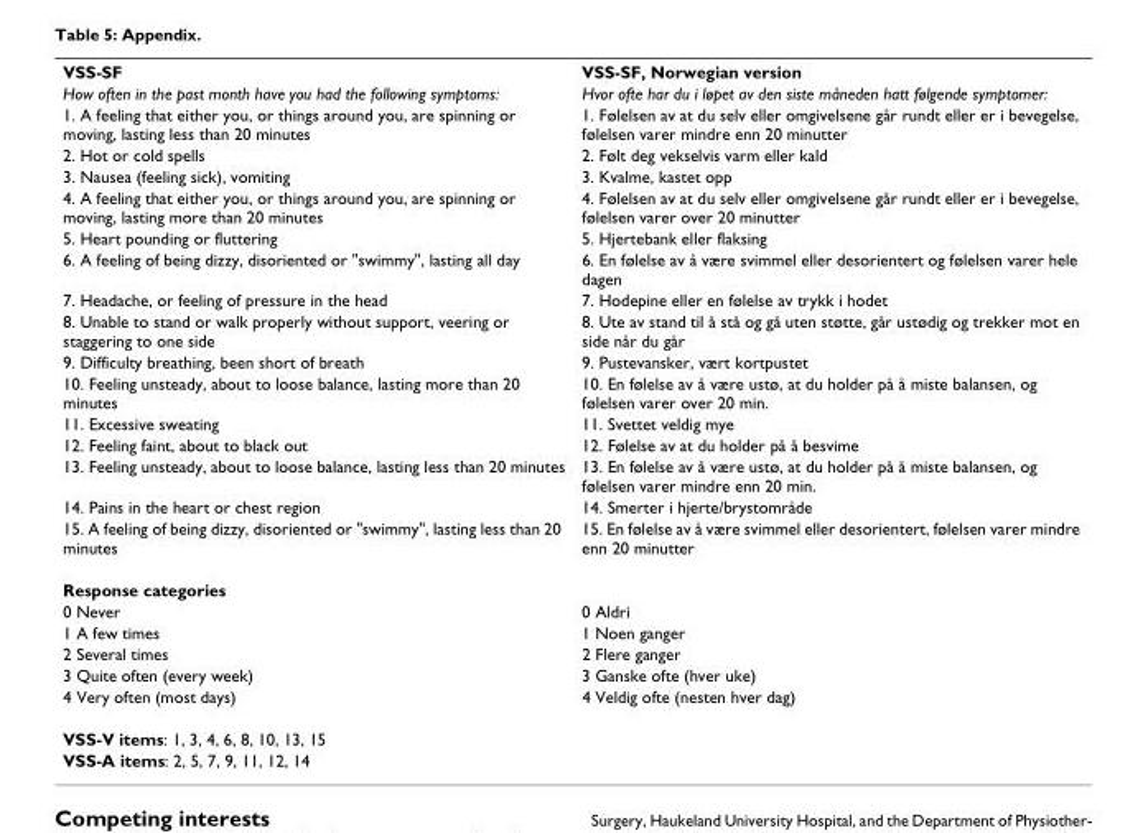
<table><tbody><tr><td>VSS-SF</td><td>VSS-SF, Norwegian version</td></tr><tr><td>How often in the past month have you had the following symptoms:</td><td>Hvor ofte har du i løpet av den siste måneden hatt følgende symptomer:</td></tr><tr><td>1. A feeling that either you, or things around you, are spinning or moving, lasting less than 20 minutes</td><td>1. Følelsen av at du selv eller omgivelsene går rundt eller er i bevegelse, følelsen varer mindre enn 20 minutter</td></tr><tr><td>2. Hot or cold spells</td><td>2. Følt deg vekselvis varm eller kald</td></tr><tr><td>3. Nausea (feeling sick), vomiting</td><td>3. Kvalme, kastet opp</td></tr><tr><td>4. A feeling that either you, or things around you, are spinning or moving, lasting more than 20 minutes</td><td>4. Følelsen av at du selv eller omgivelsene går rundt eller er i bevegelse, følelsen varer over 20 minutter</td></tr><tr><td>5. Heart pounding or fluttering</td><td>5. Hjertebank eller flaksing</td></tr><tr><td>6. A feeling of being dizzy, disoriented or &quot;swimmy&quot;, lasting all day</td><td>6. En følelse av å være svimmel eller desorientert og følelsen varer hele dagen</td></tr><tr><td>7. Headache, or feeling of pressure in the head</td><td>7. Hodepine eller en følelse av trykk i hodet</td></tr><tr><td>8. Unable to stand or walk properly without support, veering or staggering to one side</td><td>8. Ute av stand til å stå og gå uten støtte, går ustødig og trekker mot en side når du går</td></tr><tr><td>9. Difficulty breathing, been short of breath</td><td>9. Pustevansker, vært kortpustet</td></tr><tr><td>10. Feeling unsteady, about to loose balance, lasting more than 20 minutes</td><td>10. En følelse av å være ustø, at du holder på å miste balansen, og følelsen varer over 20 min.</td></tr><tr><td>11. Excessive sweating</td><td>11. Svettet veldig mye</td></tr><tr><td>12. Feeling faint, about to black out</td><td>12. Følelse av at du holder på å besvime</td></tr><tr><td>13. Feeling unsteady, about to loose balance, lasting less than 20 minutes</td><td>13. En følelse av å være ustø, at du holder på å miste balansen, og følelsen varer mindre enn 20 min.</td></tr><tr><td>14. Pains in the heart or chest region</td><td>14. Smerter i hjerte/brystområde</td></tr><tr><td>15. A feeling of being dizzy, disoriented or &quot;swimmy&quot;, lasting less than 20 minutes</td><td>15. En følelse av å være svimmel eller desorientert, følelsen varer mindre enn 20 minutter</td></tr><tr><td colspan="2">Response categories</td></tr><tr><td>0 Never</td><td>0 Aldri</td></tr><tr><td>1 A few times</td><td>1 Noen ganger</td></tr><tr><td>2 Several times</td><td>2 Flere ganger</td></tr><tr><td>3 Quite often (every week)</td><td>3 Ganske ofte (hver uke)</td></tr><tr><td>4 Very often (most days)</td><td>4 Veldig ofte (nesten hver dag)</td></tr><tr><td colspan="2">VSS-V items: 1, 3, 4, 6, 8, 10, 13, 15</td></tr><tr><td>VSS-A items: 2, 5, 7, 9, 11, 12, 14</td><td></td></tr></tbody></table>